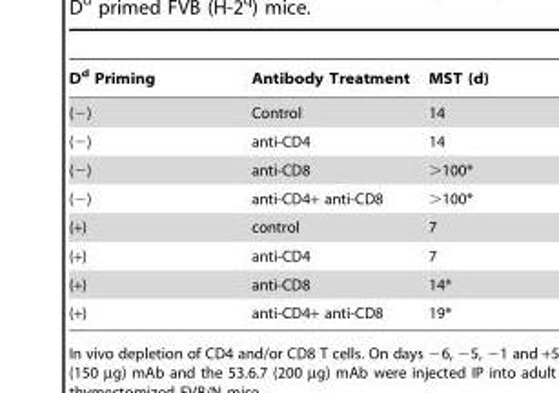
<table><thead><tr><td>D<sup>d</sup> Priming</td><td>Antibody Treatment</td><td>MST (d)</td></tr></thead><tbody><tr><td>(−)</td><td>Control</td><td>14</td></tr><tr><td>(−)</td><td>anti-CD4</td><td>14</td></tr><tr><td>(−)</td><td>anti-CD8</td><td>&gt;100*</td></tr><tr><td>(−)</td><td>anti-CD4+ anti-CD8</td><td>&gt;100*</td></tr><tr><td>(+)</td><td>control</td><td>7</td></tr><tr><td>(+)</td><td>anti-CD4</td><td>7</td></tr><tr><td>(+)</td><td>anti-CD8</td><td>14*</td></tr><tr><td>(+)</td><td>anti-CD4+ anti-CD8</td><td>19*</td></tr></tbody></table>